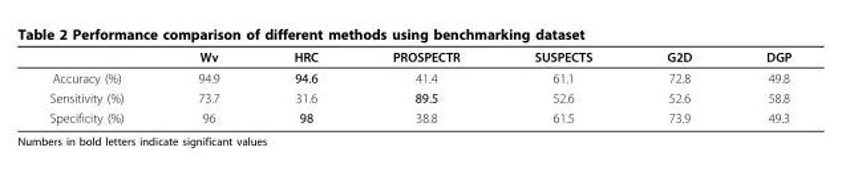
<table><thead><tr><td></td><td>Wv</td><td>HRC</td><td>PROSPECTR</td><td>SUSPECTS</td><td>G2D</td><td>DGP</td></tr></thead><tbody><tr><td>Accuracy (%)</td><td>94.9</td><td>94.6</td><td>41.4</td><td>61.1</td><td>72.8</td><td>49.8</td></tr><tr><td>Sensitivity (%)</td><td>73.7</td><td>31.6</td><td>89.5</td><td>52.6</td><td>52.6</td><td>58.8</td></tr><tr><td>Specificity (%)</td><td>96</td><td>98</td><td>38.8</td><td>61.5</td><td>73.9</td><td>49.3</td></tr></tbody></table>